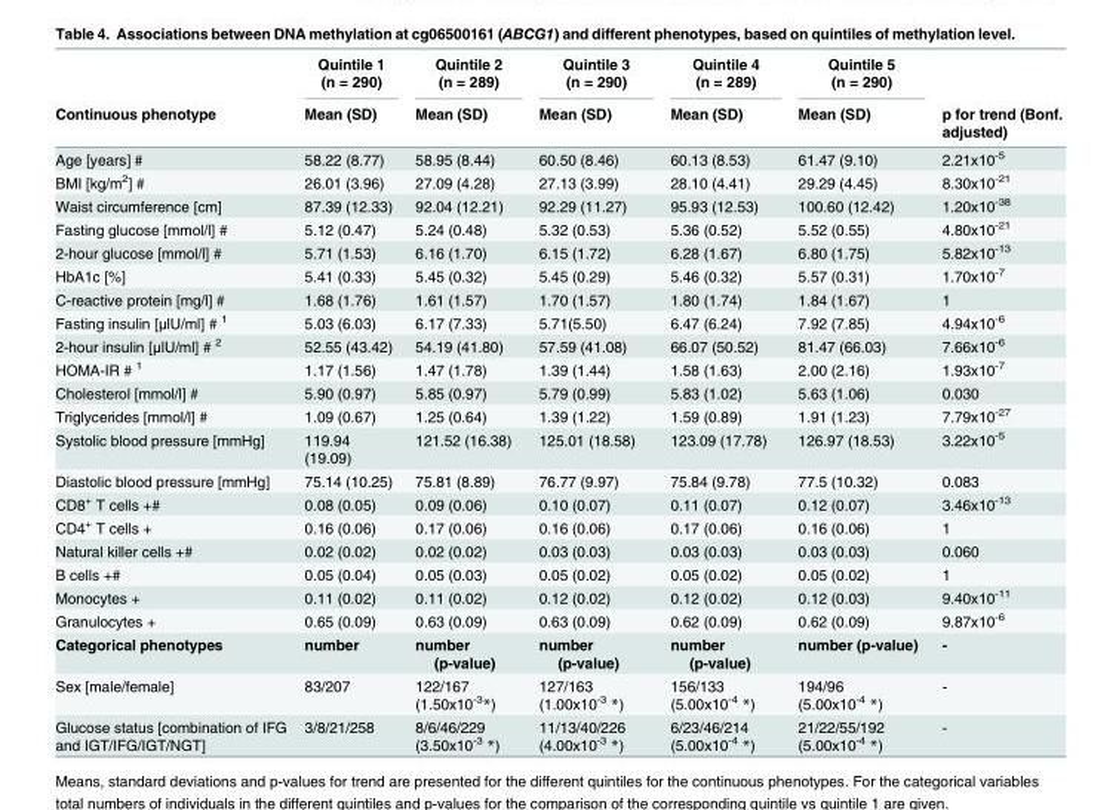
<table><thead><tr><td rowspan="2">Continuous phenotype</td><td rowspan="2">Quintile 1 (n = 290) Mean (SD)</td><td rowspan="2">Quintile 2 (n = 289) Mean (SD)</td><td rowspan="2">Quintile 3 (n = 290) Mean (SD)</td><td rowspan="2">Quintile 4 (n = 289) Mean (SD)</td><td rowspan="2">Quintile 5 (n = 290) Mean (SD)</td><td rowspan="2">p for trend (Bonf. adjusted)</td></tr><tr></tr></thead><tbody><tr><td>Age [years] #</td><td>58.22 (8.77)</td><td>58.95 (8.44)</td><td>60.50 (8.46)</td><td>60.13 (8.53)</td><td>61.47 (9.10)</td><td>2.21x10<sup>-5</sup></td></tr><tr><td>BMI [kg/m<sup>2</sup>] #</td><td>26.01 (3.96)</td><td>27.09 (4.28)</td><td>27.13 (3.99)</td><td>28.10 (4.41)</td><td>29.29 (4.45)</td><td>8.30x10<sup>-21</sup></td></tr><tr><td>Waist circumference [cm]</td><td>87.39 (12.33)</td><td>92.04 (12.21)</td><td>92.29 (11.27)</td><td>95.93 (12.53)</td><td>100.60 (12.42)</td><td>1.20x10<sup>-38</sup></td></tr><tr><td>Fasting glucose [mmol/l] #</td><td>5.12 (0.47)</td><td>5.24 (0.48)</td><td>5.32 (0.53)</td><td>5.36 (0.52)</td><td>5.52 (0.55)</td><td>4.80x10<sup>-21</sup></td></tr><tr><td>2-hour glucose [mmol/l] #</td><td>5.71 (1.53)</td><td>6.16 (1.70)</td><td>6.15 (1.72)</td><td>6.28 (1.67)</td><td>6.80 (1.75)</td><td>5.82x10<sup>-13</sup></td></tr><tr><td>HbA1c [%]</td><td>5.41 (0.33)</td><td>5.45 (0.32)</td><td>5.45 (0.29)</td><td>5.46 (0.32)</td><td>5.57 (0.31)</td><td>1.70x10<sup>-7</sup></td></tr><tr><td>C-reactive protein [mg/l] #</td><td>1.68 (1.76)</td><td>1.61 (1.57)</td><td>1.70 (1.57)</td><td>1.80 (1.74)</td><td>1.84 (1.67)</td><td>1</td></tr><tr><td>Fasting insulin [μlU/ml] # <sup>1</sup></td><td>5.03 (6.03)</td><td>6.17 (7.33)</td><td>5.71(5.50)</td><td>6.47 (6.24)</td><td>7.92 (7.85)</td><td>4.94x10<sup>-6</sup></td></tr><tr><td>2-hour insulin [μlU/ml] # <sup>2</sup></td><td>52.55 (43.42)</td><td>54.19 (41.80)</td><td>57.59 (41.08)</td><td>66.07 (50.52)</td><td>81.47 (66.03)</td><td>7.66x10<sup>-6</sup></td></tr><tr><td>HOMA-IR # <sup>1</sup></td><td>1.17 (1.56)</td><td>1.47 (1.78)</td><td>1.39 (1.44)</td><td>1.58 (1.63)</td><td>2.00 (2.16)</td><td>1.93x10<sup>-7</sup></td></tr><tr><td>Cholesterol [mmol/l] #</td><td>5.90 (0.97)</td><td>5.85 (0.97)</td><td>5.79 (0.99)</td><td>5.83 (1.02)</td><td>5.63 (1.06)</td><td>0.030</td></tr><tr><td>Triglycerides [mmol/l] #</td><td>1.09 (0.67)</td><td>1.25 (0.64)</td><td>1.39 (1.22)</td><td>1.59 (0.89)</td><td>1.91 (1.23)</td><td>7.79x10<sup>-27</sup></td></tr><tr><td>Systolic blood pressure [mmHg]</td><td>119.94 (19.09)</td><td>121.52 (16.38)</td><td>125.01 (18.58)</td><td>123.09 (17.78)</td><td>126.97 (18.53)</td><td>3.22x10<sup>-5</sup></td></tr><tr><td>Diastolic blood pressure [mmHg]</td><td>75.14 (10.25)</td><td>75.81 (8.89)</td><td>76.77 (9.97)</td><td>75.84 (9.78)</td><td>77.5 (10.32)</td><td>0.083</td></tr><tr><td>CD8<sup>+</sup> T cells +#</td><td>0.08 (0.05)</td><td>0.09 (0.06)</td><td>0.10 (0.07)</td><td>0.11 (0.07)</td><td>0.12 (0.07)</td><td>3.46x10<sup>-13</sup></td></tr><tr><td>CD4<sup>+</sup> T cells +</td><td>0.16 (0.06)</td><td>0.17 (0.06)</td><td>0.16 (0.06)</td><td>0.17 (0.06)</td><td>0.16 (0.06)</td><td>1</td></tr><tr><td>Natural killer cells +#</td><td>0.02 (0.02)</td><td>0.02 (0.02)</td><td>0.03 (0.03)</td><td>0.03 (0.03)</td><td>0.03 (0.03)</td><td>0.060</td></tr><tr><td>B cells +#</td><td>0.05 (0.04)</td><td>0.05 (0.03)</td><td>0.05 (0.02)</td><td>0.05 (0.02)</td><td>0.05 (0.02)</td><td>1</td></tr><tr><td>Monocytes +</td><td>0.11 (0.02)</td><td>0.11 (0.02)</td><td>0.12 (0.02)</td><td>0.12 (0.02)</td><td>0.12 (0.03)</td><td>9.40x10<sup>-11</sup></td></tr><tr><td>Granulocytes +</td><td>0.65 (0.09)</td><td>0.63 (0.09)</td><td>0.63 (0.09)</td><td>0.62 (0.09)</td><td>0.62 (0.09)</td><td>9.87x10<sup>-6</sup></td></tr><tr><td>Categorical phenotypes</td><td>number</td><td>number (p-value)</td><td>number (p-value)</td><td>number (p-value)</td><td>number (p-value)</td><td>-</td></tr><tr><td>Sex [male/female]</td><td>83/207</td><td>122/167 (1.50x10<sup>-3</sup>*)</td><td>127/163 (1.00x10<sup>-3</sup> *)</td><td>156/133 (5.00x10<sup>-4</sup> *)</td><td>194/96 (5.00x10<sup>-4</sup> *)</td><td>-</td></tr><tr><td>Glucose status [combination of IFG and IGT/IFG/IGT/NGT]</td><td>3/8/21/258</td><td>8/6/46/229 (3.50x10<sup>-3</sup> *)</td><td>11/13/40/226 (4.00x10<sup>-3</sup> *)</td><td>6/23/46/214 (5.00x10<sup>-4</sup> *)</td><td>21/22/55/192 (5.00x10<sup>-4</sup> *)</td><td>-</td></tr></tbody></table>